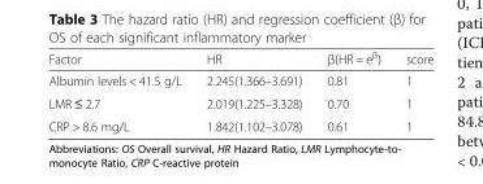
<table><thead><tr><td>Factor</td><td>HR</td><td>β(HR = e<sup>β</sup>)</td><td>score</td></tr></thead><tbody><tr><td>Albumin levels &lt; 41.5 g/L</td><td>2.245(1.366–3.691)</td><td>0.81</td><td>1</td></tr><tr><td>LMR ≤ 2.7</td><td>2.019(1.225–3.328)</td><td>0.70</td><td>1</td></tr><tr><td>CRP &gt; 8.6 mg/L</td><td>1.842(1.102–3.078)</td><td>0.61</td><td>1</td></tr></tbody></table>